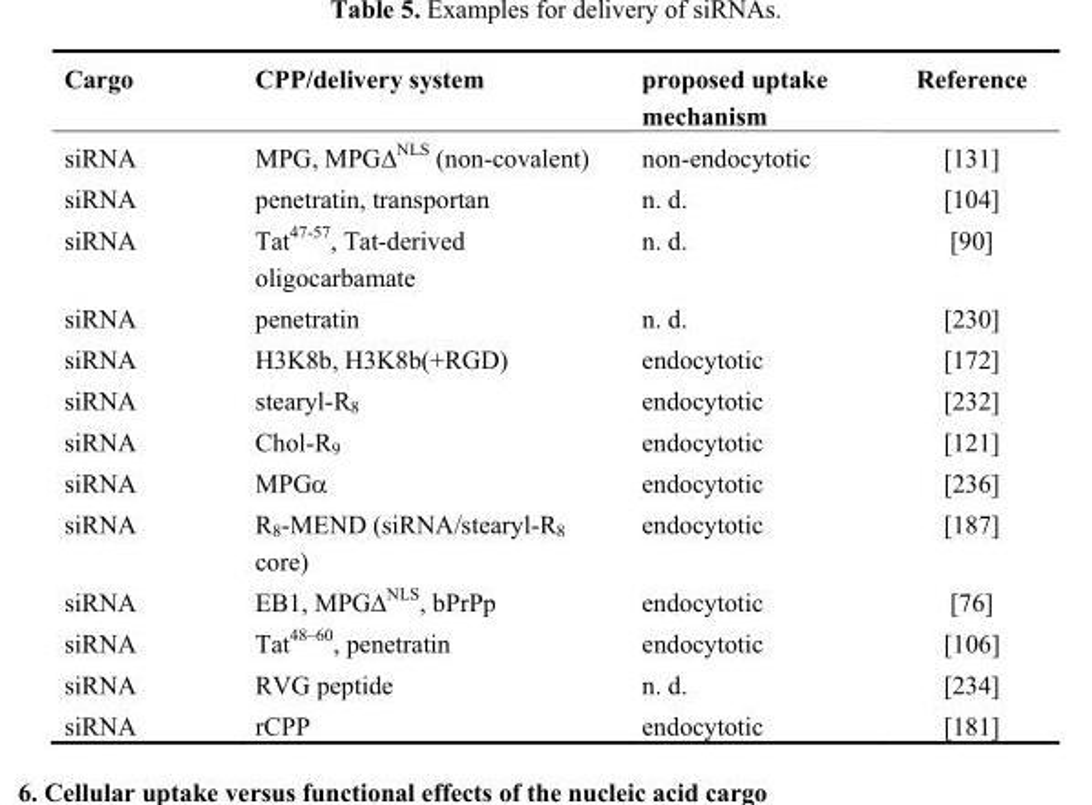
<table><thead><tr><td>Cargo</td><td>CPP/delivery system</td><td>proposed uptake mechanism</td><td>Reference</td></tr></thead><tbody><tr><td>siRNA</td><td>MPG, MPGΔ<sup>NLS</sup> (non-covalent)</td><td>non-endocytotic</td><td>[131]</td></tr><tr><td>siRNA</td><td>penetratin, transportan</td><td>n. d.</td><td>[104]</td></tr><tr><td>siRNA</td><td>Tat<sup>47-57</sup>, Tat-derived oligocarbamate</td><td>n. d.</td><td>[90]</td></tr><tr><td>siRNA</td><td>penetratin</td><td>n. d.</td><td>[230]</td></tr><tr><td>siRNA</td><td>H3K8b, H3K8b(+RGD)</td><td>endocytotic</td><td>[172]</td></tr><tr><td>siRNA</td><td>stearyl-R<sub>8</sub></td><td>endocytotic</td><td>[232]</td></tr><tr><td>siRNA</td><td>Chol-R<sub>9</sub></td><td>endocytotic</td><td>[121]</td></tr><tr><td>siRNA</td><td>MPGα</td><td>endocytotic</td><td>[236]</td></tr><tr><td>siRNA</td><td>R<sub>8</sub>-MEND (siRNA/stearyl-R<sub>8</sub> core)</td><td>endocytotic</td><td>[187]</td></tr><tr><td>siRNA</td><td>EB1, MPGΔ<sup>NLS</sup>, bPrPp</td><td>endocytotic</td><td>[76]</td></tr><tr><td>siRNA</td><td>Tat<sup>48–60</sup>, penetratin</td><td>endocytotic</td><td>[106]</td></tr><tr><td>siRNA</td><td>RVG peptide</td><td>n. d.</td><td>[234]</td></tr><tr><td>siRNA</td><td>rCPP</td><td>endocytotic</td><td>[181]</td></tr></tbody></table>